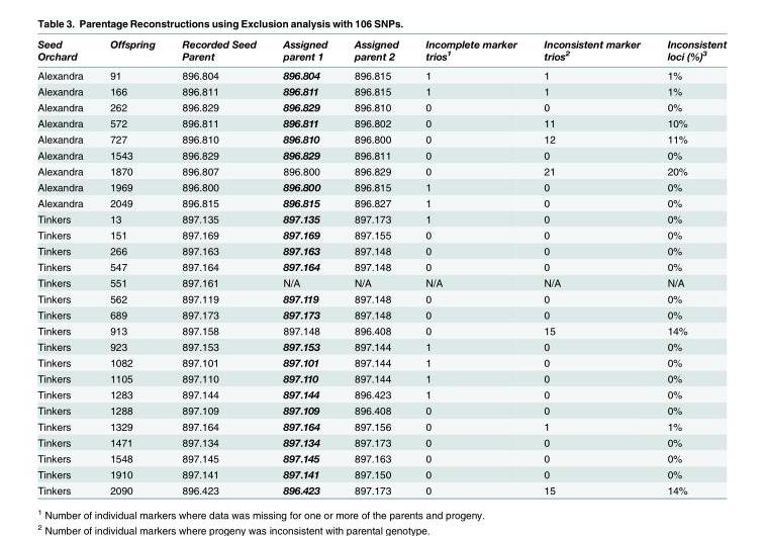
<table><thead><tr><td>Seed Orchard</td><td>Offspring</td><td>Recorded Seed Parent</td><td>Assigned parent 1</td><td>Assigned parent 2</td><td>Incomplete marker trios<sup>1</sup></td><td>Inconsistent marker trios<sup>2</sup></td><td>Inconsistent loci (%)<sup>3</sup></td></tr></thead><tbody><tr><td>Alexandra</td><td>91</td><td>896.804</td><td>896.804</td><td>896.815</td><td>1</td><td>1</td><td>1%</td></tr><tr><td>Alexandra</td><td>166</td><td>896.811</td><td>896.811</td><td>896.815</td><td>1</td><td>1</td><td>1%</td></tr><tr><td>Alexandra</td><td>262</td><td>896.829</td><td>896.829</td><td>896.810</td><td>0</td><td>0</td><td>0%</td></tr><tr><td>Alexandra</td><td>572</td><td>896.811</td><td>896.811</td><td>896.802</td><td>0</td><td>11</td><td>10%</td></tr><tr><td>Alexandra</td><td>727</td><td>896.810</td><td>896.810</td><td>896.800</td><td>0</td><td>12</td><td>11%</td></tr><tr><td>Alexandra</td><td>1543</td><td>896.829</td><td>896.829</td><td>896.811</td><td>0</td><td>0</td><td>0%</td></tr><tr><td>Alexandra</td><td>1870</td><td>896.807</td><td>896.800</td><td>896.829</td><td>0</td><td>21</td><td>20%</td></tr><tr><td>Alexandra</td><td>1969</td><td>896.800</td><td>896.800</td><td>896.815</td><td>1</td><td>0</td><td>0%</td></tr><tr><td>Alexandra</td><td>2049</td><td>896.815</td><td>896.815</td><td>896.827</td><td>1</td><td>0</td><td>0%</td></tr><tr><td>Tinkers</td><td>13</td><td>897.135</td><td>897.135</td><td>897.173</td><td>1</td><td>0</td><td>0%</td></tr><tr><td>Tinkers</td><td>151</td><td>897.169</td><td>897.169</td><td>897.155</td><td>0</td><td>0</td><td>0%</td></tr><tr><td>Tinkers</td><td>266</td><td>897.163</td><td>897.163</td><td>897.148</td><td>0</td><td>0</td><td>0%</td></tr><tr><td>Tinkers</td><td>547</td><td>897.164</td><td>897.164</td><td>897.148</td><td>0</td><td>0</td><td>0%</td></tr><tr><td>Tinkers</td><td>551</td><td>897.161</td><td>N/A</td><td>N/A</td><td>N/A</td><td>N/A</td><td>N/A</td></tr><tr><td>Tinkers</td><td>562</td><td>897.119</td><td>897.119</td><td>897.148</td><td>0</td><td>0</td><td>0%</td></tr><tr><td>Tinkers</td><td>689</td><td>897.173</td><td>897.173</td><td>897.148</td><td>0</td><td>0</td><td>0%</td></tr><tr><td>Tinkers</td><td>913</td><td>897.158</td><td>897.148</td><td>896.408</td><td>0</td><td>15</td><td>14%</td></tr><tr><td>Tinkers</td><td>923</td><td>897.153</td><td>897.153</td><td>897.144</td><td>1</td><td>0</td><td>0%</td></tr><tr><td>Tinkers</td><td>1082</td><td>897.101</td><td>897.101</td><td>897.144</td><td>1</td><td>0</td><td>0%</td></tr><tr><td>Tinkers</td><td>1105</td><td>897.110</td><td>897.110</td><td>897.144</td><td>1</td><td>0</td><td>0%</td></tr><tr><td>Tinkers</td><td>1283</td><td>897.144</td><td>897.144</td><td>896.423</td><td>1</td><td>0</td><td>0%</td></tr><tr><td>Tinkers</td><td>1288</td><td>897.109</td><td>897.109</td><td>896.408</td><td>0</td><td>0</td><td>0%</td></tr><tr><td>Tinkers</td><td>1329</td><td>897.164</td><td>897.164</td><td>897.156</td><td>0</td><td>1</td><td>1%</td></tr><tr><td>Tinkers</td><td>1471</td><td>897.134</td><td>897.134</td><td>897.173</td><td>0</td><td>0</td><td>0%</td></tr><tr><td>Tinkers</td><td>1548</td><td>897.145</td><td>897.145</td><td>897.163</td><td>0</td><td>0</td><td>0%</td></tr><tr><td>Tinkers</td><td>1910</td><td>897.141</td><td>897.141</td><td>897.150</td><td>0</td><td>0</td><td>0%</td></tr><tr><td>Tinkers</td><td>2090</td><td>896.423</td><td>896.423</td><td>897.173</td><td>0</td><td>15</td><td>14%</td></tr></tbody></table>